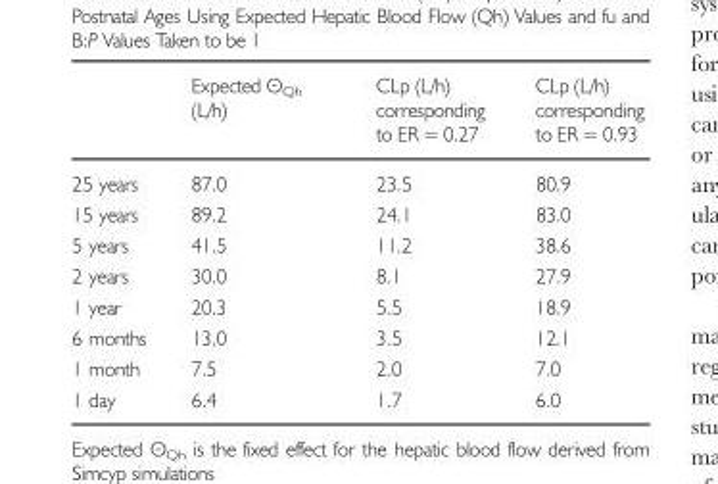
<table><thead><tr><td></td><td>Expected Θ<sub>Qh</sub> (L/h)</td><td>CLp (L/h) corresponding to ER = 0.27</td><td>CLp (L/h) corresponding to ER = 0.93</td></tr></thead><tbody><tr><td>25 years</td><td>87.0</td><td>23.5</td><td>80.9</td></tr><tr><td>15 years</td><td>89.2</td><td>24.1</td><td>83.0</td></tr><tr><td>5 years</td><td>41.5</td><td>11.2</td><td>38.6</td></tr><tr><td>2 years</td><td>30.0</td><td>8.1</td><td>27.9</td></tr><tr><td>1 year</td><td>20.3</td><td>5.5</td><td>18.9</td></tr><tr><td>6 months</td><td>13.0</td><td>3.5</td><td>12.1</td></tr><tr><td>1 month</td><td>7.5</td><td>2.0</td><td>7.0</td></tr><tr><td>1 day</td><td>6.4</td><td>1.7</td><td>6.0</td></tr></tbody></table>